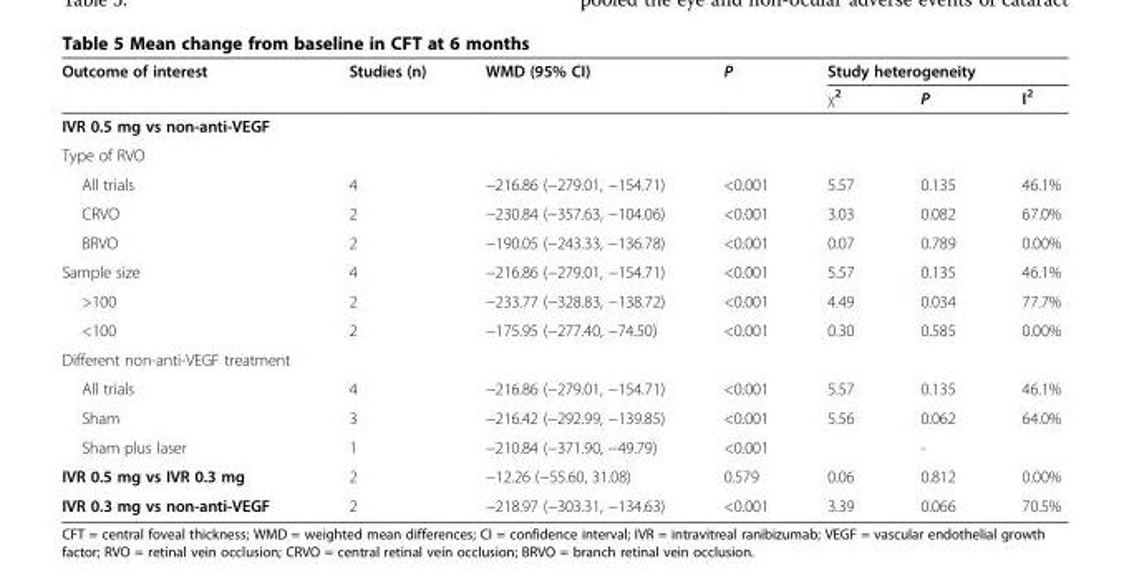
<table><thead><tr><td rowspan="2">Outcome of interest</td><td rowspan="2">Studies (n)</td><td rowspan="2">WMD (95% CI)</td><td rowspan="2">P</td><td colspan="3">Study heterogeneity</td></tr><tr><td>χ<sup>2</sup></td><td>P</td><td>I<sup>2</sup></td></tr></thead><tbody><tr><td colspan="7">IVR 0.5 mg vs non-anti-VEGF</td></tr><tr><td colspan="7">Type of RVO</td></tr><tr><td>All trials</td><td>4</td><td>−216.86 (−279.01, −154.71)</td><td>&lt;0.001</td><td>5.57</td><td>0.135</td><td>46.1%</td></tr><tr><td>CRVO</td><td>2</td><td>−230.84 (−357.63, −104.06)</td><td>&lt;0.001</td><td>3.03</td><td>0.082</td><td>67.0%</td></tr><tr><td>BRVO</td><td>2</td><td>−190.05 (−243.33, −136.78)</td><td>&lt;0.001</td><td>0.07</td><td>0.789</td><td>0.00%</td></tr><tr><td>Sample size</td><td>4</td><td>−216.86 (−279.01, −154.71)</td><td>&lt;0.001</td><td>5.57</td><td>0.135</td><td>46.1%</td></tr><tr><td>&gt;100</td><td>2</td><td>−233.77 (−328.83, −138.72)</td><td>&lt;0.001</td><td>4.49</td><td>0.034</td><td>77.7%</td></tr><tr><td>&lt;100</td><td>2</td><td>−175.95 (−277.40, −74.50)</td><td>&lt;0.001</td><td>0.30</td><td>0.585</td><td>0.00%</td></tr><tr><td colspan="7">Different non-anti-VEGF treatment</td></tr><tr><td>All trials</td><td>4</td><td>−216.86 (−279.01, −154.71)</td><td>&lt;0.001</td><td>5.57</td><td>0.135</td><td>46.1%</td></tr><tr><td>Sham</td><td>3</td><td>−216.42 (−292.99, −139.85)</td><td>&lt;0.001</td><td>5.56</td><td>0.062</td><td>64.0%</td></tr><tr><td>Sham plus laser</td><td>1</td><td>−210.84 (−371.90, −49.79)</td><td>&lt;0.001</td><td></td><td>-</td><td></td></tr><tr><td>IVR 0.5 mg vs IVR 0.3 mg</td><td>2</td><td>−12.26 (−55.60, 31.08)</td><td>0.579</td><td>0.06</td><td>0.812</td><td>0.00%</td></tr><tr><td>IVR 0.3 mg vs non-anti-VEGF</td><td>2</td><td>−218.97 (−303.31, −134.63)</td><td>&lt;0.001</td><td>3.39</td><td>0.066</td><td>70.5%</td></tr></tbody></table>